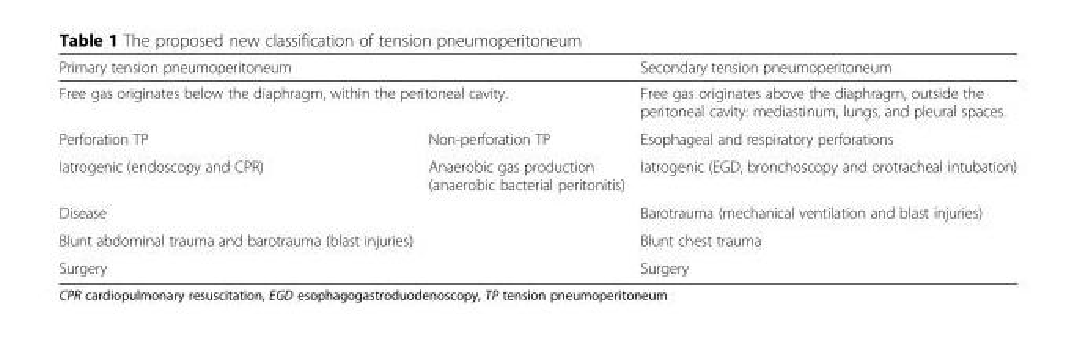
<table><thead><tr><td rowspan="2" colspan="2">Primary tension pneumoperitoneum Free gas originates below the diaphragm, within the peritoneal cavity.</td><td rowspan="3">Secondary tension pneumoperitoneum Free gas originates above the diaphragm, outside the peritoneal cavity: mediastinum, lungs, and pleural spaces. Esophageal and respiratory perforations</td></tr><tr></tr><tr><td>Perforation TP</td><td>Non-perforation TP</td></tr></thead><tbody><tr><td>Iatrogenic (endoscopy and CPR)</td><td>Anaerobic gas production (anaerobic bacterial peritonitis)</td><td>Iatrogenic (EGD, bronchoscopy and orotracheal intubation)</td></tr><tr><td>Disease</td><td rowspan="3"></td><td>Barotrauma (mechanical ventilation and blast injuries)</td></tr><tr><td>Blunt abdominal trauma and barotrauma (blast injuries)</td><td>Blunt chest trauma</td></tr><tr><td>Surgery</td><td>Surgery</td></tr></tbody></table>